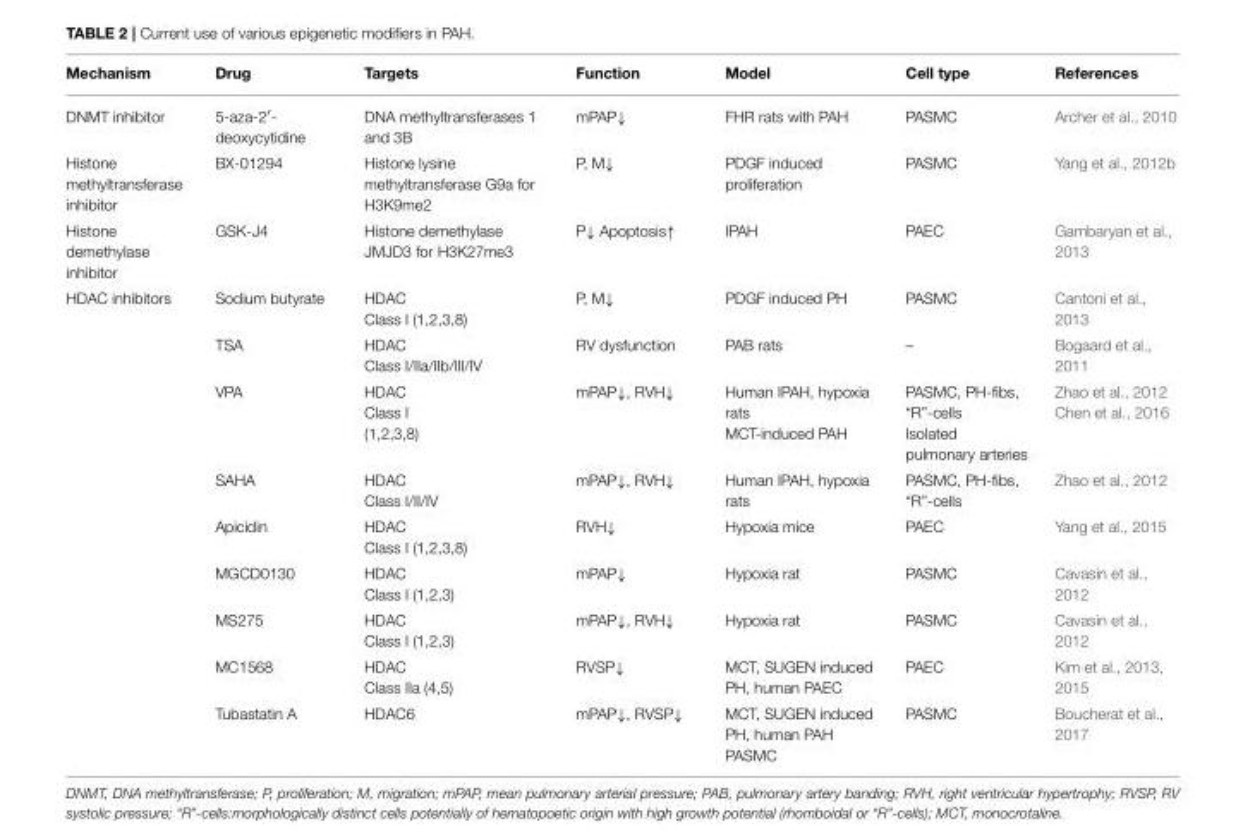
<table><thead><tr><td>Mechanism</td><td>Drug</td><td>Targets</td><td>Function</td><td>Model</td><td>Cell type</td><td>References</td></tr></thead><tbody><tr><td>DNMT inhibitor</td><td>5-aza-2′- deoxycytidine</td><td>DNA methyltransferases 1 and 3B</td><td>mPAP↓</td><td>FHR rats with PAH</td><td>PASMC</td><td>Archer et al., 2010</td></tr><tr><td>Histone methyltransferase inhibitor</td><td>BX-01294</td><td>Histone lysine methyltransferase G9a for H3K9me2</td><td>P, M↓</td><td>PDGF induced proliferation</td><td>PASMC</td><td>Yang et al., 2012b</td></tr><tr><td>Histone demethylase inhibitor</td><td>GSK-J4</td><td>Histone demethylase JMJD3 for H3K27me3</td><td>P↓ Apoptosis↑</td><td>IPAH</td><td>PAEC</td><td>Gambaryan et al., 2013</td></tr><tr><td rowspan="9">HDAC inhibitors</td><td>Sodium butyrate</td><td>HDAC Class I (1,2,3,8)</td><td>P, M↓</td><td>PDGF induced PH</td><td>PASMC</td><td>Cantoni et al., 2013</td></tr><tr><td>TSA</td><td>HDAC Class I/IIa/IIb/III/IV</td><td>RV dysfunction</td><td>PAB rats</td><td>–</td><td>Bogaard et al., 2011</td></tr><tr><td>VPA</td><td>HDAC Class I (1,2,3,8)</td><td>mPAP↓, RVH↓</td><td>Human IPAH, hypoxia rats MCT-induced PAH</td><td>PASMC, PH-fibs, “R”-cells Isolated pulmonary arteries</td><td>Zhao et al., 2012 Chen et al., 2016</td></tr><tr><td>SAHA</td><td>HDAC Class I/II/IV</td><td>mPAP↓, RVH↓</td><td>Human IPAH, hypoxia rats</td><td>PASMC, PH-fibs, “R”-cells</td><td>Zhao et al., 2012</td></tr><tr><td>Apicidin</td><td>HDAC Class I (1,2,3,8)</td><td>RVH↓</td><td>Hypoxia mice</td><td>PAEC</td><td>Yang et al., 2015</td></tr><tr><td>MGCD0130</td><td>HDAC Class I (1,2,3)</td><td>mPAP↓</td><td>Hypoxia rat</td><td>PASMC</td><td>Cavasin et al., 2012</td></tr><tr><td>MS275</td><td>HDAC Class I (1,2,3)</td><td>mPAP↓, RVH↓</td><td>Hypoxia rat</td><td>PASMC</td><td>Cavasin et al., 2012</td></tr><tr><td>MC1568</td><td>HDAC Class IIa (4,5)</td><td>RVSP↓</td><td>MCT, SUGEN induced PH, human PAEC</td><td>PAEC</td><td>Kim et al., 2013, 2015</td></tr><tr><td>Tubastatin A</td><td>HDAC6</td><td>mPAP↓, RVSP↓</td><td>MCT, SUGEN induced PH, human PAH PASMC</td><td>PASMC</td><td>Boucherat et al., 2017</td></tr></tbody></table>